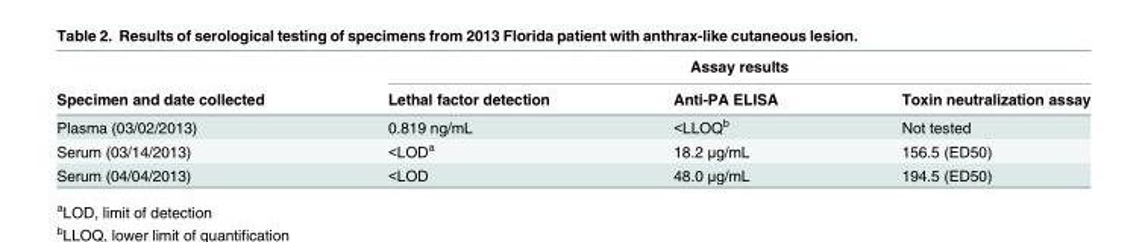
<table><thead><tr><td rowspan="2">Specimen and date collected</td><td colspan="3">Assay results</td></tr><tr><td>Lethal factor detection</td><td>Anti-PA ELISA</td><td>Toxin neutralization assay</td></tr></thead><tbody><tr><td>Plasma (03/02/2013)</td><td>0.819 ng/mL</td><td>&lt;LLOQ<sup>b</sup></td><td>Not tested</td></tr><tr><td>Serum (03/14/2013)</td><td>&lt;LOD<sup>a</sup></td><td>18.2 μg/mL</td><td>156.5 (ED50)</td></tr><tr><td>Serum (04/04/2013)</td><td>&lt;LOD</td><td>48.0 μg/mL</td><td>194.5 (ED50)</td></tr></tbody></table>